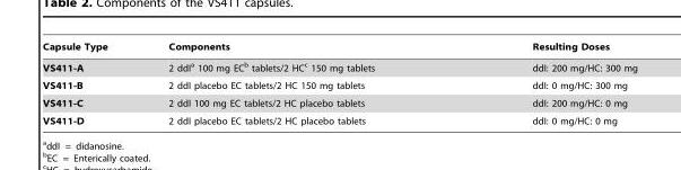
<table><thead><tr><td>Capsule Type</td><td>Components</td><td>Resulting Doses</td></tr></thead><tbody><tr><td>VS411-A</td><td>2 ddI<sup>a</sup> 100 mg EC<sup>b</sup> tablets/2 HC<sup>c</sup> 150 mg tablets</td><td>ddI: 200 mg/HC: 300 mg</td></tr><tr><td>VS411-B</td><td>2 ddI placebo EC tablets/2 HC 150 mg tablets</td><td>ddI: 0 mg/HC: 300 mg</td></tr><tr><td>VS411-C</td><td>2 ddI 100 mg EC tablets/2 HC placebo tablets</td><td>ddI: 200 mg/HC: 0 mg</td></tr><tr><td>VS411-D</td><td>2 ddI placebo EC tablets/2 HC placebo tablets</td><td>ddI: 0 mg/HC: 0 mg</td></tr></tbody></table>